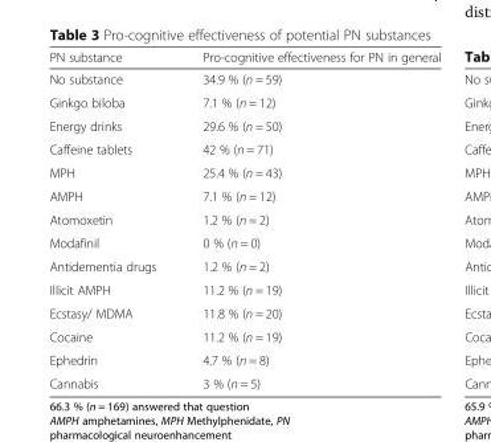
<table><thead><tr><td>PN substance</td><td>Pro-cognitive effectiveness for PN in general</td></tr></thead><tbody><tr><td>No substance</td><td>34.9 % (n = 59)</td></tr><tr><td>Ginkgo biloba</td><td>7.1 % (n = 12)</td></tr><tr><td>Energy drinks</td><td>29.6 % (n = 50)</td></tr><tr><td>Caffeine tablets</td><td>42 % (n = 71)</td></tr><tr><td>MPH</td><td>25.4 % (n = 43)</td></tr><tr><td>AMPH</td><td>7.1 % (n = 12)</td></tr><tr><td>Atomoxetin</td><td>1.2 % (n = 2)</td></tr><tr><td>Modafinil</td><td>0 % (n = 0)</td></tr><tr><td>Antidementia drugs</td><td>1.2 % (n = 2)</td></tr><tr><td>Illicit AMPH</td><td>11.2 % (n = 19)</td></tr><tr><td>Ecstasy/ MDMA</td><td>11.8 % (n = 20)</td></tr><tr><td>Cocaine</td><td>11.2 % (n = 19)</td></tr><tr><td>Ephedrin</td><td>4.7 % (n = 8)</td></tr><tr><td>Cannabis</td><td>3 % (n = 5)</td></tr></tbody></table>